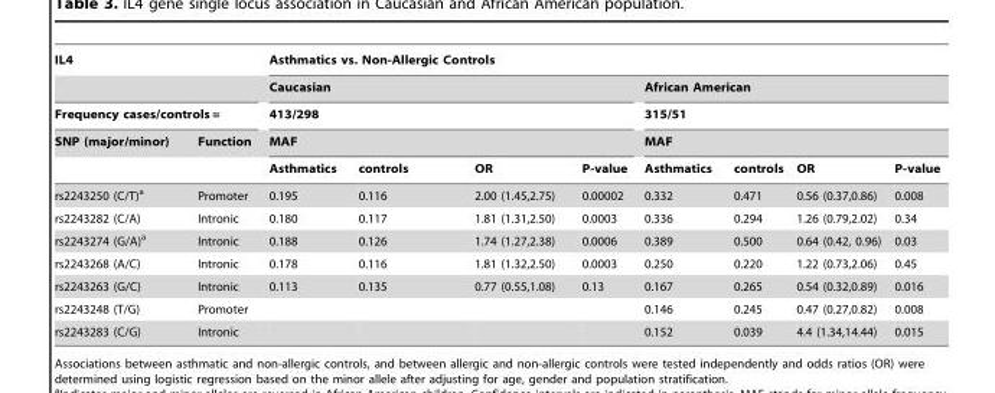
<table><thead><tr><td colspan="2">IL4</td><td colspan="8">Asthmatics vs. Non-Allergic Controls</td></tr><tr><td></td><td></td><td rowspan="3" colspan="4">Caucasian 413/298 MAF</td><td rowspan="3" colspan="4">African American 315/51 MAF</td></tr><tr><td colspan="2">Frequency cases/controls =</td></tr><tr><td rowspan="2">SNP (major/minor)</td><td rowspan="2">Function</td></tr><tr><td>Asthmatics</td><td>controls</td><td>OR</td><td>P-value</td><td>Asthmatics</td><td>controls</td><td>OR</td><td>P-value</td></tr></thead><tbody><tr><td>rs2243250 (C/T)<sup>a</sup></td><td>Promoter</td><td>0.195</td><td>0.116</td><td>2.00 (1.45,2.75)</td><td>0.00002</td><td>0.332</td><td>0.471</td><td>0.56 (0.37,0.86)</td><td>0.008</td></tr><tr><td>rs2243282 (C/A)</td><td>Intronic</td><td>0.180</td><td>0.117</td><td>1.81 (1.31,2.50)</td><td>0.0003</td><td>0.336</td><td>0.294</td><td>1.26 (0.79,2.02)</td><td>0.34</td></tr><tr><td>rs2243274 (G/A)<sup>a</sup></td><td>Intronic</td><td>0.188</td><td>0.126</td><td>1.74 (1.27,2.38)</td><td>0.0006</td><td>0.389</td><td>0.500</td><td>0.64 (0.42, 0.96)</td><td>0.03</td></tr><tr><td>rs2243268 (A/C)</td><td>Intronic</td><td>0.178</td><td>0.116</td><td>1.81 (1.32,2.50)</td><td>0.0003</td><td>0.250</td><td>0.220</td><td>1.22 (0.73,2.06)</td><td>0.45</td></tr><tr><td>rs2243263 (G/C)</td><td>Intronic</td><td>0.113</td><td>0.135</td><td>0.77 (0.55,1.08)</td><td>0.13</td><td>0.167</td><td>0.265</td><td>0.54 (0.32,0.89)</td><td>0.016</td></tr><tr><td>rs2243248 (T/G)</td><td>Promoter</td><td></td><td></td><td></td><td></td><td>0.146</td><td>0.245</td><td>0.47 (0.27,0.82)</td><td>0.008</td></tr><tr><td>rs2243283 (C/G)</td><td>Intronic</td><td></td><td></td><td></td><td></td><td>0.152</td><td>0.039</td><td>4.4 (1.34,14.44)</td><td>0.015</td></tr></tbody></table>